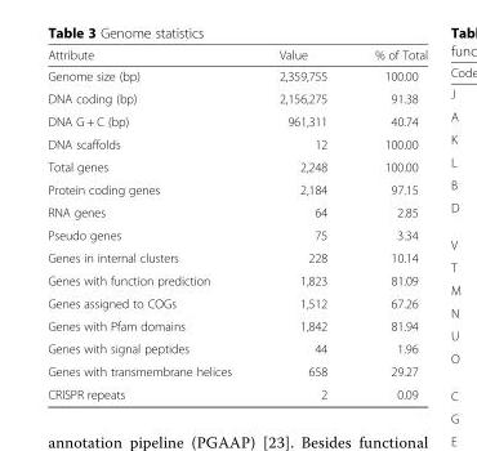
<table><thead><tr><td>Attribute</td><td>Value</td><td>% of Total</td></tr></thead><tbody><tr><td>Genome size (bp)</td><td>2,359,755</td><td>100.00</td></tr><tr><td>DNA coding (bp)</td><td>2,156,275</td><td>91.38</td></tr><tr><td>DNA G + C (bp)</td><td>961,311</td><td>40.74</td></tr><tr><td>DNA scaffolds</td><td>12</td><td>100.00</td></tr><tr><td>Total genes</td><td>2,248</td><td>100.00</td></tr><tr><td>Protein coding genes</td><td>2,184</td><td>97.15</td></tr><tr><td>RNA genes</td><td>64</td><td>2.85</td></tr><tr><td>Pseudo genes</td><td>75</td><td>3.34</td></tr><tr><td>Genes in internal clusters</td><td>228</td><td>10.14</td></tr><tr><td>Genes with function prediction</td><td>1,823</td><td>81.09</td></tr><tr><td>Genes assigned to COGs</td><td>1,512</td><td>67.26</td></tr><tr><td>Genes with Pfam domains</td><td>1,842</td><td>81.94</td></tr><tr><td>Genes with signal peptides</td><td>44</td><td>1.96</td></tr><tr><td>Genes with transmembrane helices</td><td>658</td><td>29.27</td></tr><tr><td>CRISPR repeats</td><td>2</td><td>0.09</td></tr></tbody></table>